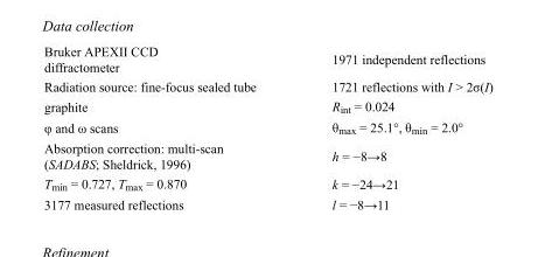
<table><tbody><tr><td>Bruker APEXII CCD diffractometer</td><td>1971 independent reflections</td></tr><tr><td>Radiation source: fine-focus sealed tube</td><td>1721 reflections with I &gt; 2σ(I)</td></tr><tr><td>graphite</td><td>R<sub>int</sub> = 0.024</td></tr><tr><td>φ and ω scans</td><td>θ<sub>max</sub> = 25.1°, θ<sub>min</sub> = 2.0°</td></tr><tr><td>Absorption correction: multi-scan (SADABS; Sheldrick, 1996)</td><td>h = −8→8</td></tr><tr><td>T<sub>min</sub> = 0.727, T<sub>max</sub> = 0.870</td><td>k = −24→21</td></tr><tr><td>3177 measured reflections</td><td>l = −8→11</td></tr></tbody></table>